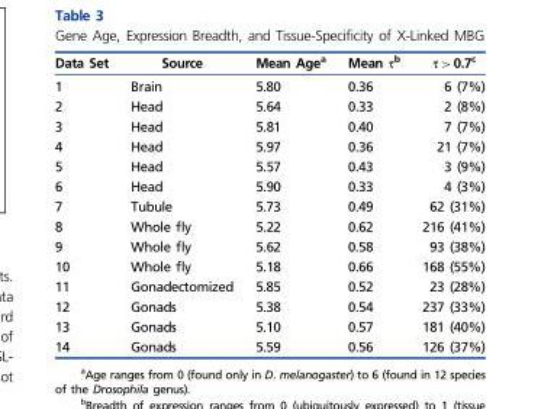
<table><thead><tr><td>Data Set</td><td>Source</td><td>Mean Age<sup>a</sup></td><td>Mean τ<sup>b</sup></td><td>τ &gt; 0.7<sup>c</sup></td></tr></thead><tbody><tr><td>1</td><td>Brain</td><td>5.80</td><td>0.36</td><td>6 (7%)</td></tr><tr><td>2</td><td>Head</td><td>5.64</td><td>0.33</td><td>2 (8%)</td></tr><tr><td>3</td><td>Head</td><td>5.81</td><td>0.40</td><td>7 (7%)</td></tr><tr><td>4</td><td>Head</td><td>5.97</td><td>0.36</td><td>21 (7%)</td></tr><tr><td>5</td><td>Head</td><td>5.57</td><td>0.43</td><td>3 (9%)</td></tr><tr><td>6</td><td>Head</td><td>5.90</td><td>0.33</td><td>4 (3%)</td></tr><tr><td>7</td><td>Tubule</td><td>5.73</td><td>0.49</td><td>62 (31%)</td></tr><tr><td>8</td><td>Whole fly</td><td>5.22</td><td>0.62</td><td>216 (41%)</td></tr><tr><td>9</td><td>Whole fly</td><td>5.62</td><td>0.58</td><td>93 (38%)</td></tr><tr><td>10</td><td>Whole fly</td><td>5.18</td><td>0.66</td><td>168 (55%)</td></tr><tr><td>11</td><td>Gonadectomized</td><td>5.85</td><td>0.52</td><td>23 (28%)</td></tr><tr><td>12</td><td>Gonads</td><td>5.38</td><td>0.54</td><td>237 (33%)</td></tr><tr><td>13</td><td>Gonads</td><td>5.10</td><td>0.57</td><td>181 (40%)</td></tr><tr><td>14</td><td>Gonads</td><td>5.59</td><td>0.56</td><td>126 (37%)</td></tr></tbody></table>